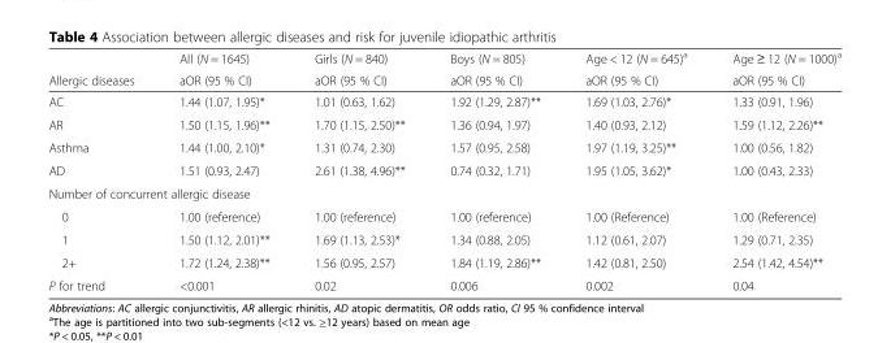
<table><thead><tr><td rowspan="2">Allergic diseases</td><td rowspan="2">All (N = 1645) aOR (95 % CI)</td><td rowspan="2">Girls (N = 840) aOR (95 % CI)</td><td rowspan="2">Boys (N = 805) aOR (95 % CI)</td><td rowspan="2">Age &lt; 12 (N = 645)<sup>a</sup> aOR (95 % CI)</td><td rowspan="2">Age ≥ 12 (N = 1000)<sup>a</sup> aOR (95 % CI)</td></tr><tr></tr></thead><tbody><tr><td>AC</td><td>1.44 (1.07, 1.95)*</td><td>1.01 (0.63, 1.62)</td><td>1.92 (1.29, 2.87)**</td><td>1.69 (1.03, 2.76)*</td><td>1.33 (0.91, 1.96)</td></tr><tr><td>AR</td><td>1.50 (1.15, 1.96)**</td><td>1.70 (1.15, 2.50)**</td><td>1.36 (0.94, 1.97)</td><td>1.40 (0.93, 2.12)</td><td>1.59 (1.12, 2.26)**</td></tr><tr><td>Asthma</td><td>1.44 (1.00, 2.10)*</td><td>1.31 (0.74, 2.30)</td><td>1.57 (0.95, 2.58)</td><td>1.97 (1.19, 3.25)**</td><td>1.00 (0.56, 1.82)</td></tr><tr><td>AD</td><td>1.51 (0.93, 2.47)</td><td>2.61 (1.38, 4.96)**</td><td>0.74 (0.32, 1.71)</td><td>1.95 (1.05, 3.62)*</td><td>1.00 (0.43, 2.33)</td></tr><tr><td colspan="6">Number of concurrent allergic disease</td></tr><tr><td>0</td><td>1.00 (reference)</td><td>1.00 (reference)</td><td>1.00 (reference)</td><td>1.00 (Reference)</td><td>1.00 (Reference)</td></tr><tr><td>1</td><td>1.50 (1.12, 2.01)**</td><td>1.69 (1.13, 2.53)*</td><td>1.34 (0.88, 2.05)</td><td>1.12 (0.61, 2.07)</td><td>1.29 (0.71, 2.35)</td></tr><tr><td>2+</td><td>1.72 (1.24, 2.38)**</td><td>1.56 (0.95, 2.57)</td><td>1.84 (1.19, 2.86)**</td><td>1.42 (0.81, 2.50)</td><td>2.54 (1.42, 4.54)**</td></tr><tr><td>P for trend</td><td>&lt;0.001</td><td>0.02</td><td>0.006</td><td>0.002</td><td>0.04</td></tr></tbody></table>